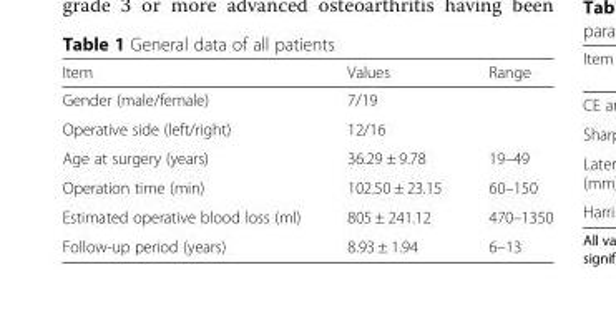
<table><thead><tr><td>Item</td><td>Values</td><td>Range</td></tr></thead><tbody><tr><td>Gender (male/female)</td><td>7/19</td><td></td></tr><tr><td>Operative side (left/right)</td><td>12/16</td><td></td></tr><tr><td>Age at surgery (years)</td><td>36.29 ± 9.78</td><td>19–49</td></tr><tr><td>Operation time (min)</td><td>102.50 ± 23.15</td><td>60–150</td></tr><tr><td>Estimated operative blood loss (ml)</td><td>805 ± 241.12</td><td>470–1350</td></tr><tr><td>Follow-up period (years)</td><td>8.93 ± 1.94</td><td>6–13</td></tr></tbody></table>